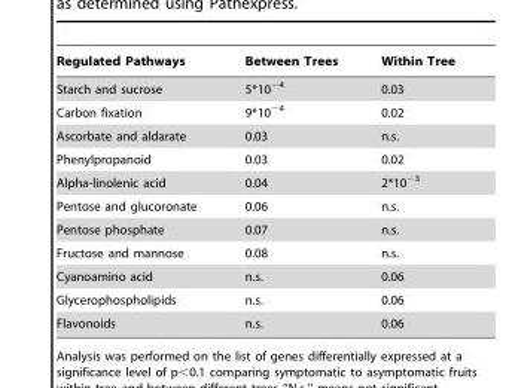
<table><thead><tr><td>Regulated Pathways</td><td>Between Trees</td><td>Within Tree</td></tr></thead><tbody><tr><td>Starch and sucrose</td><td>5*10<sup>−4</sup></td><td>0.03</td></tr><tr><td>Carbon fixation</td><td>9*10<sup>−4</sup></td><td>0.02</td></tr><tr><td>Ascorbate and aldarate</td><td>0.03</td><td>n.s.</td></tr><tr><td>Phenylpropanoid</td><td>0.03</td><td>0.02</td></tr><tr><td>Alpha-linolenic acid</td><td>0.04</td><td>2*10<sup>−3</sup></td></tr><tr><td>Pentose and glucoronate</td><td>0.06</td><td>n.s.</td></tr><tr><td>Pentose phosphate</td><td>0.07</td><td>n.s.</td></tr><tr><td>Fructose and mannose</td><td>0.08</td><td>n.s.</td></tr><tr><td>Cyanoamino acid</td><td>n.s.</td><td>0.06</td></tr><tr><td>Glycerophospholipids</td><td>n.s.</td><td>0.06</td></tr><tr><td>Flavonoids</td><td>n.s.</td><td>0.06</td></tr></tbody></table>